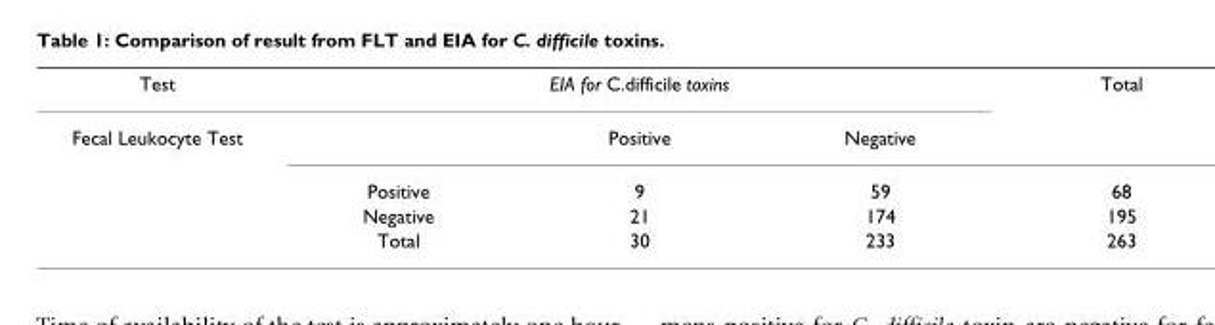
<table><tbody><tr><td>Test</td><td colspan="3">EIA for C.difficile toxins</td><td>Total</td></tr><tr><td rowspan="4">Fecal Leukocyte Test</td><td></td><td>Positive</td><td>Negative</td><td></td></tr><tr><td>Positive</td><td>9</td><td>59</td><td>68</td></tr><tr><td>Negative</td><td>21</td><td>174</td><td>195</td></tr><tr><td>Total</td><td>30</td><td>233</td><td>263</td></tr></tbody></table>